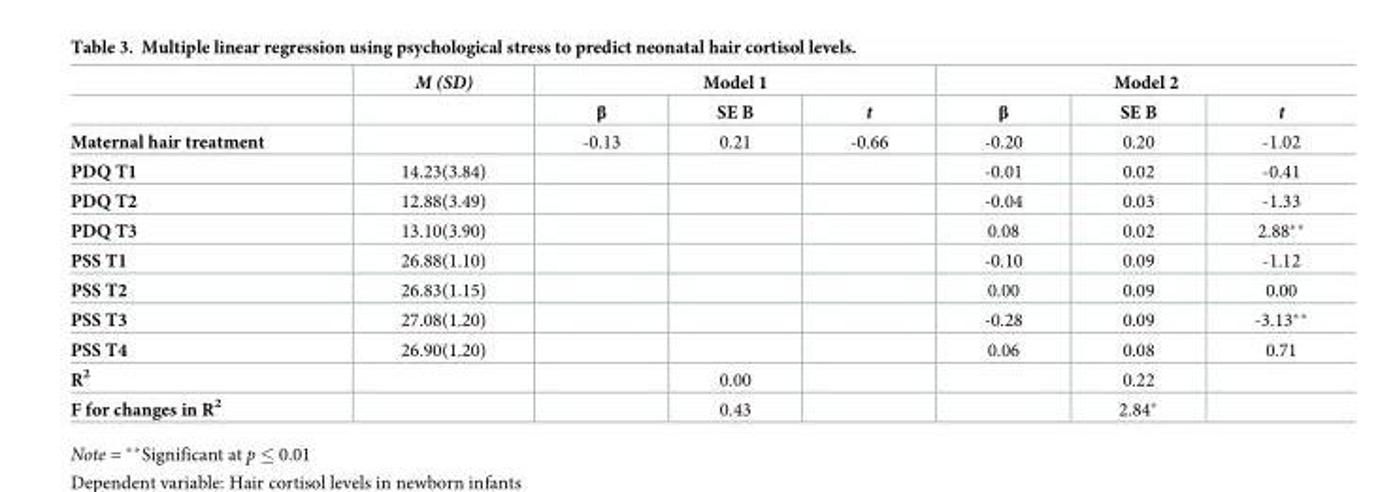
<table><thead><tr><td rowspan="2"></td><td rowspan="2">M (SD)</td><td colspan="3">Model 1</td><td colspan="3">Model 2</td></tr><tr><td>β</td><td>SE B</td><td>t</td><td>β</td><td>SE B</td><td>t</td></tr></thead><tbody><tr><td>Maternal hair treatment</td><td></td><td>-0.13</td><td>0.21</td><td>-0.66</td><td>-0.20</td><td>0.20</td><td>-1.02</td></tr><tr><td>PDQ T1</td><td>14.23(3.84)</td><td></td><td></td><td></td><td>-0.01</td><td>0.02</td><td>-0.41</td></tr><tr><td>PDQ T2</td><td>12.88(3.49)</td><td></td><td></td><td></td><td>-0.04</td><td>0.03</td><td>-1.33</td></tr><tr><td>PDQ T3</td><td>13.10(3.90)</td><td></td><td></td><td></td><td>0.08</td><td>0.02</td><td>2.88**</td></tr><tr><td>PSS T1</td><td>26.88(1.10)</td><td></td><td></td><td></td><td>-0.10</td><td>0.09</td><td>-1.12</td></tr><tr><td>PSS T2</td><td>26.83(1.15)</td><td></td><td></td><td></td><td>0.00</td><td>0.09</td><td>0.00</td></tr><tr><td>PSS T3</td><td>27.08(1.20)</td><td></td><td></td><td></td><td>-0.28</td><td>0.09</td><td>-3.13**</td></tr><tr><td>PSS T4</td><td>26.90(1.20)</td><td></td><td></td><td></td><td>0.06</td><td>0.08</td><td>0.71</td></tr><tr><td>R<sup>2</sup></td><td></td><td></td><td>0.00</td><td></td><td></td><td>0.22</td><td></td></tr><tr><td>F for changes in R<sup>2</sup></td><td></td><td></td><td>0.43</td><td></td><td></td><td>2.84*</td><td></td></tr></tbody></table>